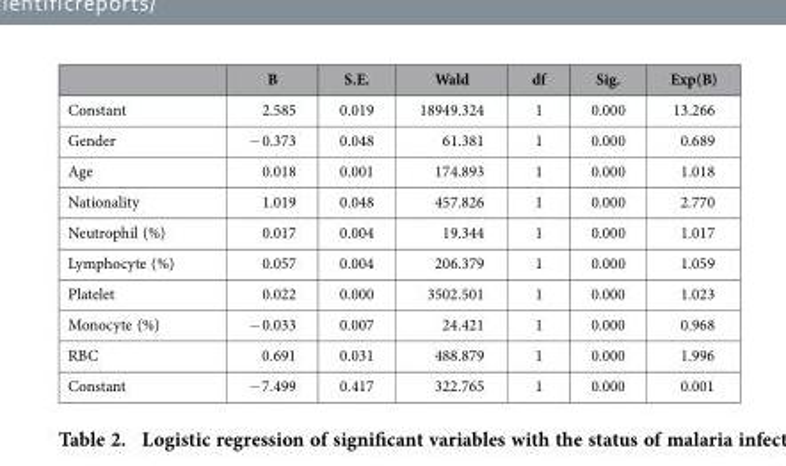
<table><thead><tr><td></td><td>B</td><td>S.E.</td><td>Wald</td><td>df</td><td>Sig.</td><td>Exp(B)</td></tr></thead><tbody><tr><td>Constant</td><td>2.585</td><td>0.019</td><td>18949.324</td><td>1</td><td>0.000</td><td>13.266</td></tr><tr><td>Gender</td><td>− 0.373</td><td>0.048</td><td>61.381</td><td>1</td><td>0.000</td><td>0.689</td></tr><tr><td>Age</td><td>0.018</td><td>0.001</td><td>174.893</td><td>1</td><td>0.000</td><td>1.018</td></tr><tr><td>Nationality</td><td>1.019</td><td>0.048</td><td>457.826</td><td>1</td><td>0.000</td><td>2.770</td></tr><tr><td>Neutrophil (%)</td><td>0.017</td><td>0.004</td><td>19.344</td><td>1</td><td>0.000</td><td>1.017</td></tr><tr><td>Lymphocyte (%)</td><td>0.057</td><td>0.004</td><td>206.379</td><td>1</td><td>0.000</td><td>1.059</td></tr><tr><td>Platelet</td><td>0.022</td><td>0.000</td><td>3502.501</td><td>1</td><td>0.000</td><td>1.023</td></tr><tr><td>Monocyte (%)</td><td>− 0.033</td><td>0.007</td><td>24.421</td><td>1</td><td>0.000</td><td>0.968</td></tr><tr><td>RBC</td><td>0.691</td><td>0.031</td><td>488.879</td><td>1</td><td>0.000</td><td>1.996</td></tr><tr><td>Constant</td><td>− 7.499</td><td>0.417</td><td>322.765</td><td>1</td><td>0.000</td><td>0.001</td></tr></tbody></table>